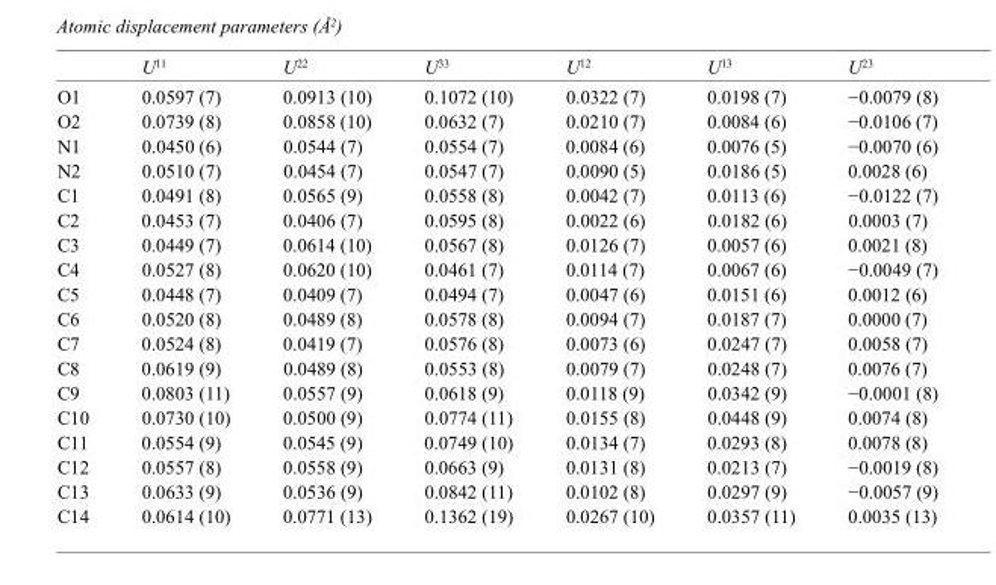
<table><thead><tr><td></td><td>U<sup>11</sup></td><td>U<sup>22</sup></td><td>U<sup>33</sup></td><td>U<sup>12</sup></td><td>U<sup>13</sup></td><td>U<sup>23</sup></td></tr></thead><tbody><tr><td>O1</td><td>0.0597 (7)</td><td>0.0913 (10)</td><td>0.1072 (10)</td><td>0.0322 (7)</td><td>0.0198 (7)</td><td>−0.0079 (8)</td></tr><tr><td>O2</td><td>0.0739 (8)</td><td>0.0858 (10)</td><td>0.0632 (7)</td><td>0.0210 (7)</td><td>0.0084 (6)</td><td>−0.0106 (7)</td></tr><tr><td>N1</td><td>0.0450 (6)</td><td>0.0544 (7)</td><td>0.0554 (7)</td><td>0.0084 (6)</td><td>0.0076 (5)</td><td>−0.0070 (6)</td></tr><tr><td>N2</td><td>0.0510 (7)</td><td>0.0454 (7)</td><td>0.0547 (7)</td><td>0.0090 (5)</td><td>0.0186 (5)</td><td>0.0028 (6)</td></tr><tr><td>C1</td><td>0.0491 (8)</td><td>0.0565 (9)</td><td>0.0558 (8)</td><td>0.0042 (7)</td><td>0.0113 (6)</td><td>−0.0122 (7)</td></tr><tr><td>C2</td><td>0.0453 (7)</td><td>0.0406 (7)</td><td>0.0595 (8)</td><td>0.0022 (6)</td><td>0.0182 (6)</td><td>0.0003 (7)</td></tr><tr><td>C3</td><td>0.0449 (7)</td><td>0.0614 (10)</td><td>0.0567 (8)</td><td>0.0126 (7)</td><td>0.0057 (6)</td><td>0.0021 (8)</td></tr><tr><td>C4</td><td>0.0527 (8)</td><td>0.0620 (10)</td><td>0.0461 (7)</td><td>0.0114 (7)</td><td>0.0067 (6)</td><td>−0.0049 (7)</td></tr><tr><td>C5</td><td>0.0448 (7)</td><td>0.0409 (7)</td><td>0.0494 (7)</td><td>0.0047 (6)</td><td>0.0151 (6)</td><td>0.0012 (6)</td></tr><tr><td>C6</td><td>0.0520 (8)</td><td>0.0489 (8)</td><td>0.0578 (8)</td><td>0.0094 (7)</td><td>0.0187 (7)</td><td>0.0000 (7)</td></tr><tr><td>C7</td><td>0.0524 (8)</td><td>0.0419 (7)</td><td>0.0576 (8)</td><td>0.0073 (6)</td><td>0.0247 (7)</td><td>0.0058 (7)</td></tr><tr><td>C8</td><td>0.0619 (9)</td><td>0.0489 (8)</td><td>0.0553 (8)</td><td>0.0079 (7)</td><td>0.0248 (7)</td><td>0.0076 (7)</td></tr><tr><td>C9</td><td>0.0803 (11)</td><td>0.0557 (9)</td><td>0.0618 (9)</td><td>0.0118 (9)</td><td>0.0342 (9)</td><td>−0.0001 (8)</td></tr><tr><td>C10</td><td>0.0730 (10)</td><td>0.0500 (9)</td><td>0.0774 (11)</td><td>0.0155 (8)</td><td>0.0448 (9)</td><td>0.0074 (8)</td></tr><tr><td>C11</td><td>0.0554 (9)</td><td>0.0545 (9)</td><td>0.0749 (10)</td><td>0.0134 (7)</td><td>0.0293 (8)</td><td>0.0078 (8)</td></tr><tr><td>C12</td><td>0.0557 (8)</td><td>0.0558 (9)</td><td>0.0663 (9)</td><td>0.0131 (8)</td><td>0.0213 (7)</td><td>−0.0019 (8)</td></tr><tr><td>C13</td><td>0.0633 (9)</td><td>0.0536 (9)</td><td>0.0842 (11)</td><td>0.0102 (8)</td><td>0.0297 (9)</td><td>−0.0057 (9)</td></tr><tr><td>C14</td><td>0.0614 (10)</td><td>0.0771 (13)</td><td>0.1362 (19)</td><td>0.0267 (10)</td><td>0.0357 (11)</td><td>0.0035 (13)</td></tr></tbody></table>